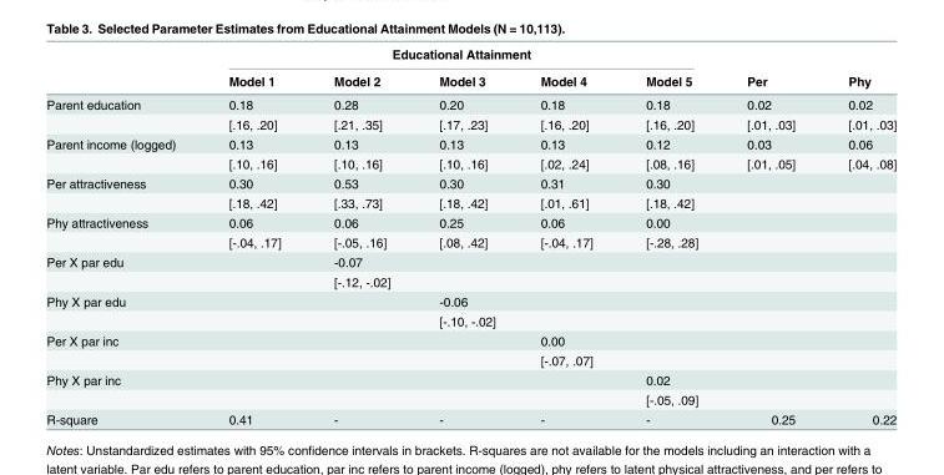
<table><thead><tr><td rowspan="2"></td><td colspan="5">Educational Attainment</td><td rowspan="2">Per</td><td rowspan="2">Phy</td></tr><tr><td>Model 1</td><td>Model 2</td><td>Model 3</td><td>Model 4</td><td>Model 5</td></tr></thead><tbody><tr><td rowspan="2">Parent education</td><td>0.18</td><td>0.28</td><td>0.20</td><td>0.18</td><td>0.18</td><td>0.02</td><td>0.02</td></tr><tr><td>[.16, .20]</td><td>[.21, .35]</td><td>[.17, .23]</td><td>[.16, .20]</td><td>[.16, .20]</td><td>[.01, .03]</td><td>[.01, .03]</td></tr><tr><td rowspan="2">Parent income (logged)</td><td>0.13</td><td>0.13</td><td>0.13</td><td>0.13</td><td>0.12</td><td>0.03</td><td>0.06</td></tr><tr><td>[.10, .16]</td><td>[.10, .16]</td><td>[.10, .16]</td><td>[.02, .24]</td><td>[.08, .16]</td><td>[.01, .05]</td><td>[.04, .08]</td></tr><tr><td rowspan="2">Per attractiveness</td><td>0.30</td><td>0.53</td><td>0.30</td><td>0.31</td><td>0.30</td><td></td><td></td></tr><tr><td>[.18, .42]</td><td>[.33, .73]</td><td>[.18, .42]</td><td>[.01, .61]</td><td colspan="2">[.18, .42]</td><td></td></tr><tr><td rowspan="2">Phy attractiveness</td><td>0.06</td><td>0.06</td><td>0.25</td><td>0.06</td><td>0.00</td><td></td><td></td></tr><tr><td>[-.04, .17]</td><td>[-.05, .16]</td><td>[.08, .42]</td><td>[-.04, .17]</td><td colspan="2">[-.28, .28]</td><td></td></tr><tr><td rowspan="2">Per X par edu</td><td></td><td>-0.07</td><td></td><td></td><td></td><td></td><td></td></tr><tr><td></td><td colspan="2">[-.12, -.02]</td><td></td><td></td><td></td><td></td></tr><tr><td rowspan="2">Phy X par edu</td><td></td><td></td><td>-0.06</td><td></td><td></td><td></td><td></td></tr><tr><td></td><td></td><td colspan="2">[-.10, -.02]</td><td></td><td></td><td></td></tr><tr><td rowspan="2">Per X par inc</td><td></td><td></td><td></td><td>0.00</td><td></td><td></td><td></td></tr><tr><td></td><td></td><td></td><td colspan="2">[-.07, .07]</td><td></td><td></td></tr><tr><td rowspan="2">Phy X par inc</td><td></td><td></td><td></td><td></td><td>0.02</td><td></td><td></td></tr><tr><td></td><td></td><td></td><td></td><td colspan="2">[-.05, .09]</td><td></td></tr><tr><td>R-square</td><td>0.41</td><td>-</td><td>-</td><td>-</td><td>-</td><td>0.25</td><td>0.22</td></tr></tbody></table>